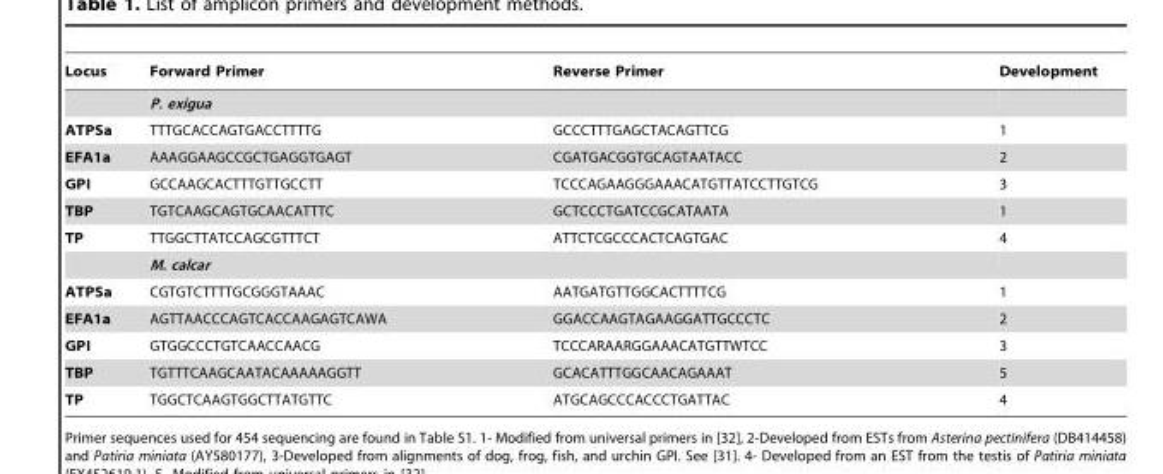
<table><thead><tr><td>Locus</td><td>Forward Primer</td><td>Reverse Primer</td><td>Development</td></tr></thead><tbody><tr><td></td><td>P. exigua</td><td></td><td></td></tr><tr><td>ATPSa</td><td>TTTGCACCAGTGACCTTTTG</td><td>GCCCTTTGAGCTACAGTTCG</td><td>1</td></tr><tr><td>EFA1a</td><td>AAAGGAAGCCGCTGAGGTGAGT</td><td>CGATGACGGTGCAGTAATACC</td><td>2</td></tr><tr><td>GPI</td><td>GCCAAGCACTTTGTTGCCTT</td><td>TCCCAGAAGGGAAACATGTTATCCTTGTCG</td><td>3</td></tr><tr><td>TBP</td><td>TGTCAAGCAGTGCAACATTTC</td><td>GCTCCCTGATCCGCATAATA</td><td>1</td></tr><tr><td rowspan="2">TP</td><td>TTGGCTTATCCAGCGTTTCT</td><td>ATTCTCGCCCACTCAGTGAC</td><td>4</td></tr><tr><td>M. calcar</td><td></td><td></td></tr><tr><td>ATPSa</td><td>CGTGTCTTTTGCGGGTAAAC</td><td>AATGATGTTGGCACTTTTCG</td><td>1</td></tr><tr><td>EFA1a</td><td>AGTTAACCCAGTCACCAAGAGTCAWA</td><td>GGACCAAGTAGAAGGATTGCCCTC</td><td>2</td></tr><tr><td>GPI</td><td>GTGGCCCTGTCAACCAACG</td><td>TCCCARAARGGAAACATGTTWTCC</td><td>3</td></tr><tr><td>TBP</td><td>TGTTTCAAGCAATACAAAAAGGTT</td><td>GCACATTTGGCAACAGAAAT</td><td>5</td></tr><tr><td>TP</td><td>TGGCTCAAGTGGCTTATGTTC</td><td>ATGCAGCCCACCCTGATTAC</td><td>4</td></tr></tbody></table>